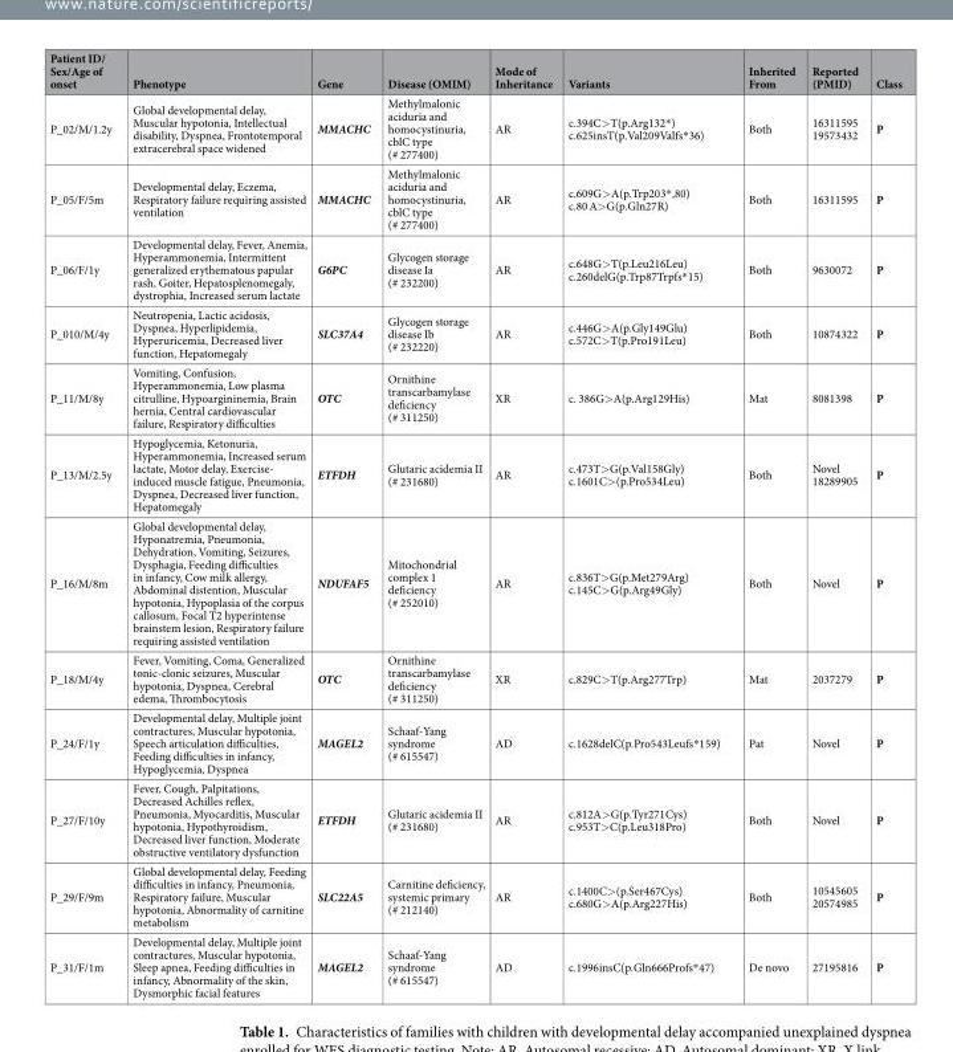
<table><thead><tr><td>Patient ID/ Sex/Age of onset</td><td>Phenotype</td><td>Gene</td><td>Disease (OMIM)</td><td>Mode of Inheritance</td><td>Variants</td><td>Inherited From</td><td>Reported (PMID)</td><td>Class</td></tr></thead><tbody><tr><td>P_02/M/1.2y</td><td>Global developmental delay, Muscular hypotonia, Intellectual disability, Dyspnea, Frontotemporal extracerebral space widened</td><td>MMACHC</td><td>Methylmalonic aciduria and homocystinuria, cblC type (# 277400)</td><td>AR</td><td>c.394C&gt;T(p.Arg132*) c.625insT(p.Val209Valfs*36)</td><td>Both</td><td>16311595 19573432</td><td>P</td></tr><tr><td>P_05/F/5m</td><td>Developmental delay, Eczema, Respiratory failure requiring assisted ventilation</td><td>MMACHC</td><td>Methylmalonic aciduria and homocystinuria, cblC type (# 277400)</td><td>AR</td><td>c.609G&gt;A(p.Trp203*,80) c.80 A&gt;G(p.Gln27R)</td><td>Both</td><td>16311595</td><td>P</td></tr><tr><td>P_06/F/1y</td><td>Developmental delay, Fever, Anemia, Hyperammonemia, Intermittent generalized erythematous papular rash, Goiter, Hepatosplenomegaly, dystrophia, Increased serum lactate</td><td>G6PC</td><td>Glycogen storage disease Ia (# 232200)</td><td>AR</td><td>c.648G&gt;T(p.Leu216Leu) c.260delG(p.Trp87Trpfs*15)</td><td>Both</td><td>9630072</td><td>P</td></tr><tr><td>P_010/M/4y</td><td>Neutropenia, Lactic acidosis, Dyspnea, Hyperlipidemia, Hyperuricemia, Decreased liver function, Hepatomegaly</td><td>SLC37A4</td><td>Glycogen storage disease Ib (# 232220)</td><td>AR</td><td>c.446G&gt;A(p.Gly149Glu) c.572C&gt;T(p.Pro191Leu)</td><td>Both</td><td>10874322</td><td>P</td></tr><tr><td>P_11/M/8y</td><td>Vomiting, Confusion, Hyperammonemia, Low plasma citrulline, Hypoargininemia, Brain hernia, Central cardiovascular failure, Respiratory difficulties</td><td>OTC</td><td>Ornithine transcarbamylase deficiency (# 311250)</td><td>XR</td><td>c. 386G&gt;A(p.Arg129His)</td><td>Mat</td><td>8081398</td><td>P</td></tr><tr><td>P_13/M/2.5y</td><td>Hypoglycemia, Ketonuria, Hyperammonemia, Increased serum lactate, Motor delay, Exercise- induced muscle fatigue, Pneumonia, Dyspnea, Decreased liver function, Hepatomegaly</td><td>ETFDH</td><td>Glutaric acidemia II (# 231680)</td><td>AR</td><td>c.473T&gt;G(p.Val158Gly) c.1601C&gt;(p.Pro534Leu)</td><td>Both</td><td>Novel 18289905</td><td>P</td></tr><tr><td>P_16/M/8m</td><td>Global developmental delay, Hyponatremia, Pneumonia, Dehydration, Vomiting, Seizures, Dysphagia, Feeding difficulties in infancy, Cow milk allergy, Abdominal distention, Muscular hypotonia, Hypoplasia of the corpus callosum, Focal T2 hyperintense brainstem lesion, Respiratory failure requiring assisted ventilation</td><td>NDUFAF5</td><td>Mitochondrial complex 1 deficiency (# 252010)</td><td>AR</td><td>c.836T&gt;G(p.Met279Arg) c.145C&gt;G(p.Arg49Gly)</td><td>Both</td><td>Novel</td><td>P</td></tr><tr><td>P_18/M/4y</td><td>Fever, Vomiting, Coma, Generalized tonic-clonic seizures, Muscular hypotonia, Dyspnea, Cerebral edema, Thrombocytosis</td><td>OTC</td><td>Ornithine transcarbamylase deficiency (# 311250)</td><td>XR</td><td>c.829C&gt;T(p.Arg277Trp)</td><td>Mat</td><td>2037279</td><td>P</td></tr><tr><td>P_24/F/1y</td><td>Developmental delay, Multiple joint contractures, Muscular hypotonia, Speech articulation difficulties, Feeding difficulties in infancy, Hypoglycemia, Dyspnea</td><td>MAGEL2</td><td>Schaaf-Yang syndrome (# 615547)</td><td>AD</td><td>c.1628delC(p.Pro543Leufs*159)</td><td>Pat</td><td>Novel</td><td>P</td></tr><tr><td>P_27/F/10y</td><td>Fever, Cough, Palpitations, Decreased Achilles reflex, Pneumonia, Myocarditis, Muscular hypotonia, Hypothyroidism, Decreased liver function, Moderate obstructive ventilatory dysfunction</td><td>ETFDH</td><td>Glutaric acidemia II (# 231680)</td><td>AR</td><td>c.812A&gt;G(p.Tyr271Cys) c.953T&gt;C(p.Leu318Pro)</td><td>Both</td><td>Novel</td><td>P</td></tr><tr><td>P_29/F/9m</td><td>Global developmental delay, Feeding difficulties in infancy, Pneumonia, Respiratory failure, Muscular hypotonia, Abnormality of carnitine metabolism</td><td>SLC22A5</td><td>Carnitine deficiency, systemic primary (# 212140)</td><td>AR</td><td>c.1400C&gt;(p.Ser467Cys) c.680G&gt;A(p.Arg227His)</td><td>Both</td><td>10545605 20574985</td><td>P</td></tr><tr><td>P_31/F/1m</td><td>Developmental delay, Multiple joint contractures, Muscular hypotonia, Sleep apnea, Feeding difficulties in infancy, Abnormality of the skin, Dysmorphic facial features</td><td>MAGEL2</td><td>Schaaf-Yang syndrome (# 615547)</td><td>AD</td><td>c.1996insC(p.Gln666Profs*47)</td><td>De novo</td><td>27195816</td><td>P</td></tr></tbody></table>